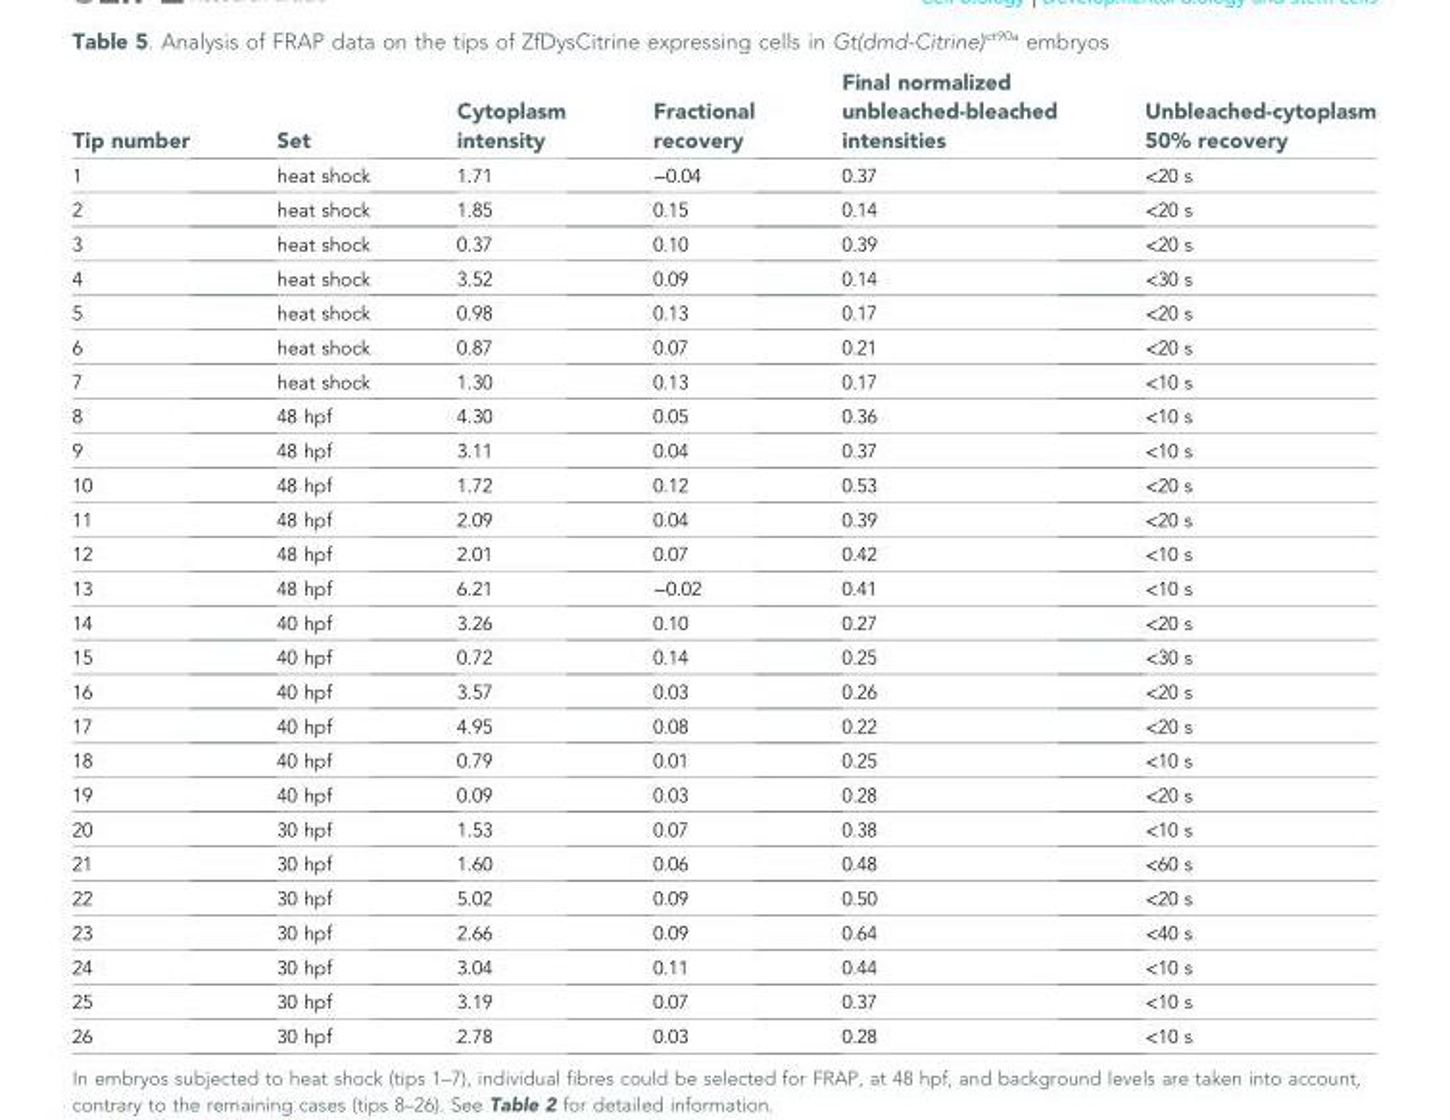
<table><thead><tr><td>Tip number</td><td>Set</td><td>Cytoplasm intensity</td><td>Fractional recovery</td><td>Final normalized unbleached-bleached intensities</td><td>Unbleached-cytoplasm 50% recovery</td></tr></thead><tbody><tr><td>1</td><td>heat shock</td><td>1.71</td><td>−0.04</td><td>0.37</td><td>&lt;20 s</td></tr><tr><td>2</td><td>heat shock</td><td>1.85</td><td>0.15</td><td>0.14</td><td>&lt;20 s</td></tr><tr><td>3</td><td>heat shock</td><td>0.37</td><td>0.10</td><td>0.39</td><td>&lt;20 s</td></tr><tr><td>4</td><td>heat shock</td><td>3.52</td><td>0.09</td><td>0.14</td><td>&lt;30 s</td></tr><tr><td>5</td><td>heat shock</td><td>0.98</td><td>0.13</td><td>0.17</td><td>&lt;20 s</td></tr><tr><td>6</td><td>heat shock</td><td>0.87</td><td>0.07</td><td>0.21</td><td>&lt;20 s</td></tr><tr><td>7</td><td>heat shock</td><td>1.30</td><td>0.13</td><td>0.17</td><td>&lt;10 s</td></tr><tr><td>8</td><td>48 hpf</td><td>4.30</td><td>0.05</td><td>0.36</td><td>&lt;10 s</td></tr><tr><td>9</td><td>48 hpf</td><td>3.11</td><td>0.04</td><td>0.37</td><td>&lt;10 s</td></tr><tr><td>10</td><td>48 hpf</td><td>1.72</td><td>0.12</td><td>0.53</td><td>&lt;20 s</td></tr><tr><td>11</td><td>48 hpf</td><td>2.09</td><td>0.04</td><td>0.39</td><td>&lt;20 s</td></tr><tr><td>12</td><td>48 hpf</td><td>2.01</td><td>0.07</td><td>0.42</td><td>&lt;10 s</td></tr><tr><td>13</td><td>48 hpf</td><td>6.21</td><td>−0.02</td><td>0.41</td><td>&lt;10 s</td></tr><tr><td>14</td><td>40 hpf</td><td>3.26</td><td>0.10</td><td>0.27</td><td>&lt;20 s</td></tr><tr><td>15</td><td>40 hpf</td><td>0.72</td><td>0.14</td><td>0.25</td><td>&lt;30 s</td></tr><tr><td>16</td><td>40 hpf</td><td>3.57</td><td>0.03</td><td>0.26</td><td>&lt;20 s</td></tr><tr><td>17</td><td>40 hpf</td><td>4.95</td><td>0.08</td><td>0.22</td><td>&lt;20 s</td></tr><tr><td>18</td><td>40 hpf</td><td>0.79</td><td>0.01</td><td>0.25</td><td>&lt;10 s</td></tr><tr><td>19</td><td>40 hpf</td><td>0.09</td><td>0.03</td><td>0.28</td><td>&lt;20 s</td></tr><tr><td>20</td><td>30 hpf</td><td>1.53</td><td>0.07</td><td>0.38</td><td>&lt;10 s</td></tr><tr><td>21</td><td>30 hpf</td><td>1.60</td><td>0.06</td><td>0.48</td><td>&lt;60 s</td></tr><tr><td>22</td><td>30 hpf</td><td>5.02</td><td>0.09</td><td>0.50</td><td>&lt;20 s</td></tr><tr><td>23</td><td>30 hpf</td><td>2.66</td><td>0.09</td><td>0.64</td><td>&lt;40 s</td></tr><tr><td>24</td><td>30 hpf</td><td>3.04</td><td>0.11</td><td>0.44</td><td>&lt;10 s</td></tr><tr><td>25</td><td>30 hpf</td><td>3.19</td><td>0.07</td><td>0.37</td><td>&lt;10 s</td></tr><tr><td>26</td><td>30 hpf</td><td>2.78</td><td>0.03</td><td>0.28</td><td>&lt;10 s</td></tr></tbody></table>